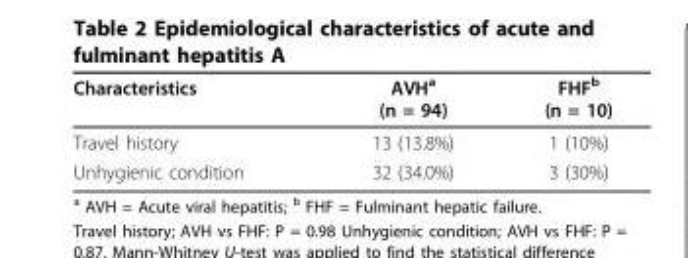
<table><thead><tr><td>Characteristics</td><td>AVH<sup>a</sup> (n = 94)</td><td>FHF<sup>b</sup> (n = 10)</td></tr></thead><tbody><tr><td>Travel history</td><td>13 (13.8%)</td><td>1 (10%)</td></tr><tr><td>Unhygienic condition</td><td>32 (34.0%)</td><td>3 (30%)</td></tr></tbody></table>